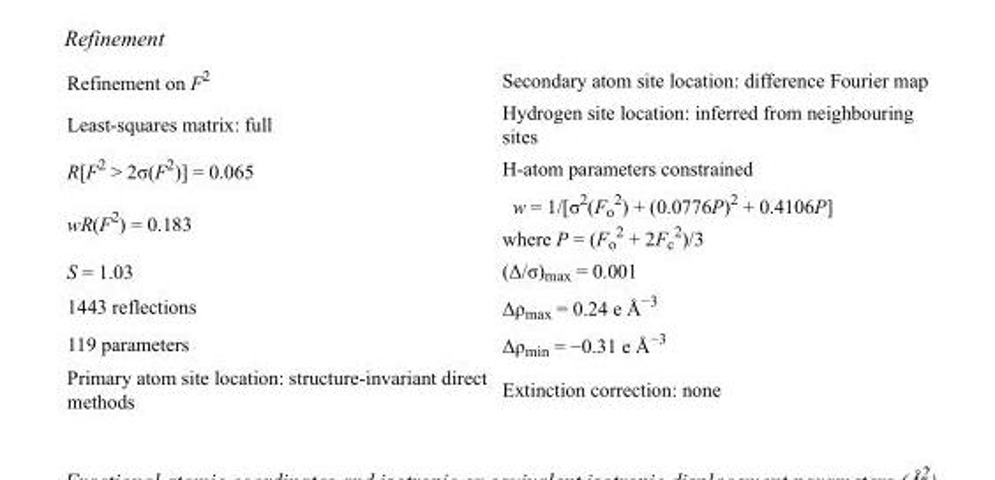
<table><tbody><tr><td>Refinement on F<sup>2</sup></td><td>Secondary atom site location: difference Fourier map</td></tr><tr><td>Least-squares matrix: full</td><td>Hydrogen site location: inferred from neighbouring sites</td></tr><tr><td>R[F<sup>2</sup> &gt; 2σ(F<sup>2</sup>)] = 0.065</td><td>H-atom parameters constrained</td></tr><tr><td>wR(F<sup>2</sup>) = 0.183</td><td>w = 1/[σ<sup>2</sup>(F<sub>o</sub> <sup>2</sup>) + (0.0776P)<sup>2</sup> + 0.4106P] where P = (F<sub>o</sub> <sup>2</sup> + 2F<sub>c</sub> <sup>2</sup>)/3</td></tr><tr><td>S = 1.03</td><td>(Δ/σ)<sub>max</sub> = 0.001</td></tr><tr><td>1443 reflections</td><td>Δρ<sub>max</sub> = 0.24 e Å<sup>−3</sup></td></tr><tr><td>119 parameters</td><td>Δρ<sub>min</sub> = −0.31 e Å<sup>−3</sup></td></tr><tr><td>Primary atom site location: structure-invariant direct methods</td><td>Extinction correction: none</td></tr></tbody></table>